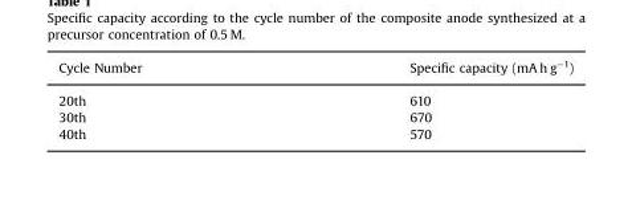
<table><thead><tr><td>Cycle Number</td><td>Specific capacity (mA h g<sup>−1</sup>)</td></tr></thead><tbody><tr><td>20th</td><td>610</td></tr><tr><td>30th</td><td>670</td></tr><tr><td>40th</td><td>570</td></tr></tbody></table>